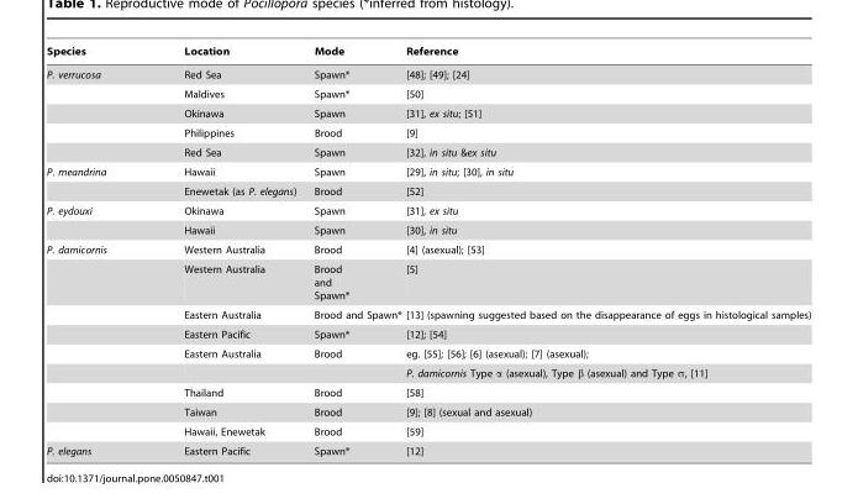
<table><thead><tr><td>Species</td><td>Location</td><td>Mode</td><td>Reference</td></tr></thead><tbody><tr><td rowspan="5">P. verrucosa</td><td>Red Sea</td><td>Spawn*</td><td>[48]; [49]; [24]</td></tr><tr><td>Maldives</td><td>Spawn*</td><td>[50]</td></tr><tr><td>Okinawa</td><td>Spawn</td><td>[31], ex situ; [51]</td></tr><tr><td>Philippines</td><td>Brood</td><td>[9]</td></tr><tr><td>Red Sea</td><td>Spawn</td><td>[32], in situ &amp;ex situ</td></tr><tr><td rowspan="2">P. meandrina</td><td>Hawaii</td><td>Spawn</td><td>[29], in situ; [30], in situ</td></tr><tr><td>Enewetak (as P. elegans)</td><td>Brood</td><td>[52]</td></tr><tr><td rowspan="2">P. eydouxi</td><td>Okinawa</td><td>Spawn</td><td>[31], ex situ</td></tr><tr><td>Hawaii</td><td>Spawn</td><td>[30], in situ</td></tr><tr><td rowspan="9">P. damicornis</td><td>Western Australia</td><td>Brood</td><td>[4] (asexual); [53]</td></tr><tr><td>Western Australia</td><td>Brood and Spawn*</td><td>[5]</td></tr><tr><td>Eastern Australia</td><td>Brood and Spawn*</td><td>[13] (spawning suggested based on the disappearance of eggs in histological samples)</td></tr><tr><td>Eastern Pacific</td><td>Spawn*</td><td>[12]; [54]</td></tr><tr><td>Eastern Australia</td><td>Brood</td><td>eg. [55]; [56]; [6] (asexual); [7] (asexual);</td></tr><tr><td></td><td></td><td>P. damicornis Type α (asexual), Type β (asexual) and Type σ, [11]</td></tr><tr><td>Thailand</td><td>Brood</td><td>[58]</td></tr><tr><td>Taiwan</td><td>Brood</td><td>[9]; [8] (sexual and asexual)</td></tr><tr><td>Hawaii, Enewetak</td><td>Brood</td><td>[59]</td></tr><tr><td>P. elegans</td><td>Eastern Pacific</td><td>Spawn*</td><td>[12]</td></tr></tbody></table>